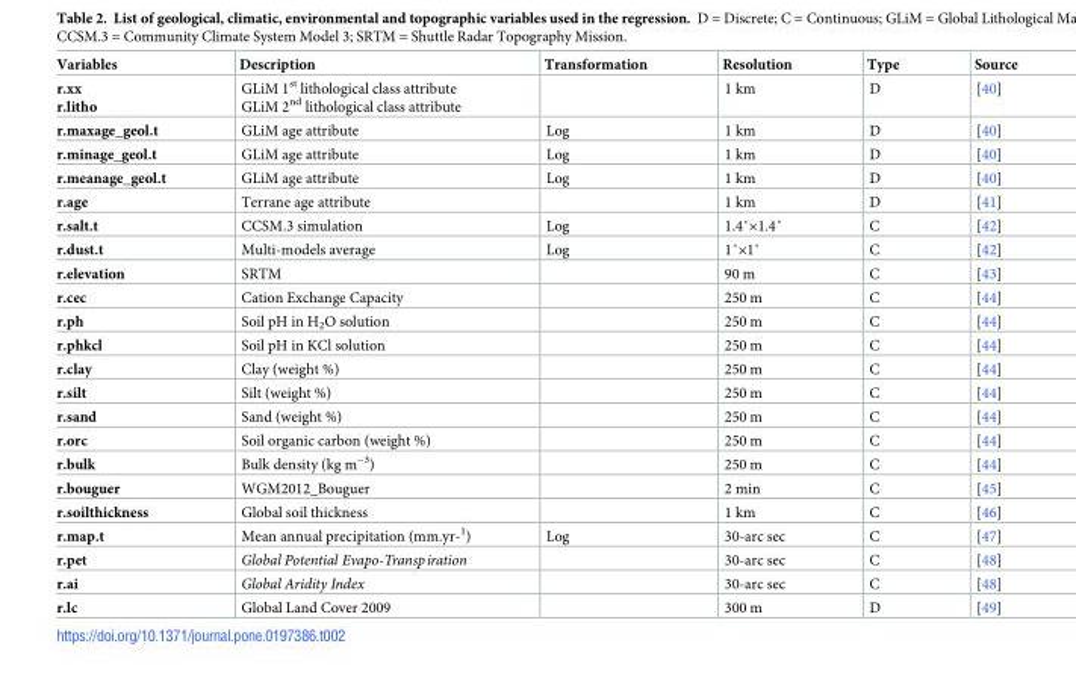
<table><thead><tr><td>Variables</td><td>Description</td><td>Transformation</td><td>Resolution</td><td>Type</td><td>Source</td></tr></thead><tbody><tr><td>r.xx r.litho</td><td>GLiM 1<sup>st</sup> lithological class attribute GLiM 2<sup>nd</sup> lithological class attribute</td><td></td><td>1 km</td><td>D</td><td>[40]</td></tr><tr><td>r.maxage_geol.t</td><td>GLiM age attribute</td><td>Log</td><td>1 km</td><td>D</td><td>[40]</td></tr><tr><td>r.minage_geol.t</td><td>GLiM age attribute</td><td>Log</td><td>1 km</td><td>D</td><td>[40]</td></tr><tr><td>r.meanage_geol.t</td><td>GLiM age attribute</td><td>Log</td><td>1 km</td><td>D</td><td>[40]</td></tr><tr><td>r.age</td><td>Terrane age attribute</td><td></td><td>1 km</td><td>D</td><td>[41]</td></tr><tr><td>r.salt.t</td><td>CCSM.3 simulation</td><td>Log</td><td>1.4˚×1.4˚</td><td>C</td><td>[42]</td></tr><tr><td>r.dust.t</td><td>Multi-models average</td><td>Log</td><td>1˚×1˚</td><td>C</td><td>[42]</td></tr><tr><td>r.elevation</td><td>SRTM</td><td></td><td>90 m</td><td>C</td><td>[43]</td></tr><tr><td>r.cec</td><td>Cation Exchange Capacity</td><td></td><td>250 m</td><td>C</td><td>[44]</td></tr><tr><td>r.ph</td><td>Soil pH in H<sub>2</sub>O solution</td><td></td><td>250 m</td><td>C</td><td>[44]</td></tr><tr><td>r.phkcl</td><td>Soil pH in KCl solution</td><td></td><td>250 m</td><td>C</td><td>[44]</td></tr><tr><td>r.clay</td><td>Clay (weight %)</td><td></td><td>250 m</td><td>C</td><td>[44]</td></tr><tr><td>r.silt</td><td>Silt (weight %)</td><td></td><td>250 m</td><td>C</td><td>[44]</td></tr><tr><td>r.sand</td><td>Sand (weight %)</td><td></td><td>250 m</td><td>C</td><td>[44]</td></tr><tr><td>r.orc</td><td>Soil organic carbon (weight %)</td><td></td><td>250 m</td><td>C</td><td>[44]</td></tr><tr><td>r.bulk</td><td>Bulk density (kg m<sup>−3</sup>)</td><td></td><td>250 m</td><td>C</td><td>[44]</td></tr><tr><td>r.bouguer</td><td>WGM2012_Bouguer</td><td></td><td>2 min</td><td>C</td><td>[45]</td></tr><tr><td>r.soilthickness</td><td>Global soil thickness</td><td></td><td>1 km</td><td>C</td><td>[46]</td></tr><tr><td>r.map.t</td><td>Mean annual precipitation (mm.yr-<sup>1</sup>)</td><td>Log</td><td>30-arc sec</td><td>C</td><td>[47]</td></tr><tr><td>r.pet</td><td>Global Potential Evapo-Transpiration</td><td></td><td>30-arc sec</td><td>C</td><td>[48]</td></tr><tr><td>r.ai</td><td>Global Aridity Index</td><td></td><td>30-arc sec</td><td>C</td><td>[48]</td></tr><tr><td>r.lc</td><td>Global Land Cover 2009</td><td></td><td>300 m</td><td>D</td><td>[49]</td></tr></tbody></table>